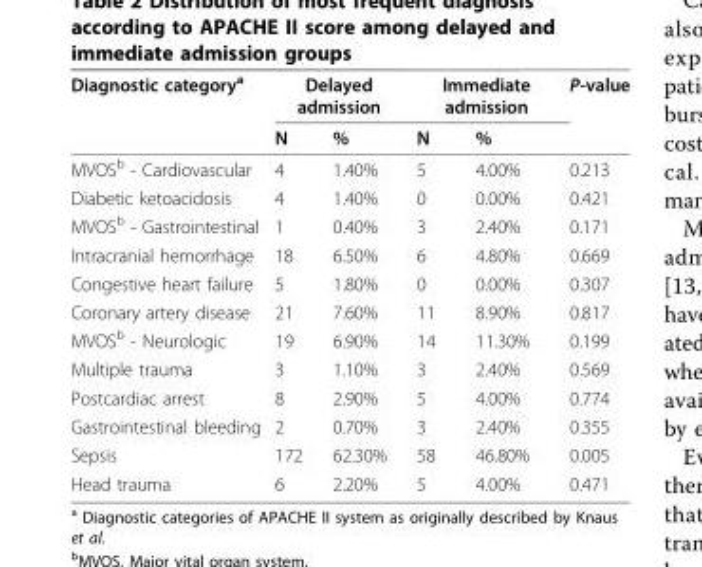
<table><thead><tr><td rowspan="2">Diagnostic category<sup>a</sup></td><td colspan="2">Delayed admission</td><td colspan="2">Immediate admission</td><td rowspan="2">P-value</td></tr><tr><td>N</td><td>%</td><td>N</td><td>%</td></tr></thead><tbody><tr><td>MVOS<sup>b</sup> - Cardiovascular</td><td>4</td><td>1.40%</td><td>5</td><td>4.00%</td><td>0.213</td></tr><tr><td>Diabetic ketoacidosis</td><td>4</td><td>1.40%</td><td>0</td><td>0.00%</td><td>0.421</td></tr><tr><td>MVOS<sup>b</sup> - Gastrointestinal</td><td>1</td><td>0.40%</td><td>3</td><td>2.40%</td><td>0.171</td></tr><tr><td>Intracranial hemorrhage</td><td>18</td><td>6.50%</td><td>6</td><td>4.80%</td><td>0.669</td></tr><tr><td>Congestive heart failure</td><td>5</td><td>1.80%</td><td>0</td><td>0.00%</td><td>0.307</td></tr><tr><td>Coronary artery disease</td><td>21</td><td>7.60%</td><td>11</td><td>8.90%</td><td>0.817</td></tr><tr><td>MVOS<sup>b</sup> - Neurologic</td><td>19</td><td>6.90%</td><td>14</td><td>11.30%</td><td>0.199</td></tr><tr><td>Multiple trauma</td><td>3</td><td>1.10%</td><td>3</td><td>2.40%</td><td>0.569</td></tr><tr><td>Postcardiac arrest</td><td>8</td><td>2.90%</td><td>5</td><td>4.00%</td><td>0.774</td></tr><tr><td>Gastrointestinal bleeding</td><td>2</td><td>0.70%</td><td>3</td><td>2.40%</td><td>0.355</td></tr><tr><td>Sepsis</td><td>172</td><td>62.30%</td><td>58</td><td>46.80%</td><td>0.005</td></tr><tr><td>Head trauma</td><td>6</td><td>2.20%</td><td>5</td><td>4.00%</td><td>0.471</td></tr></tbody></table>